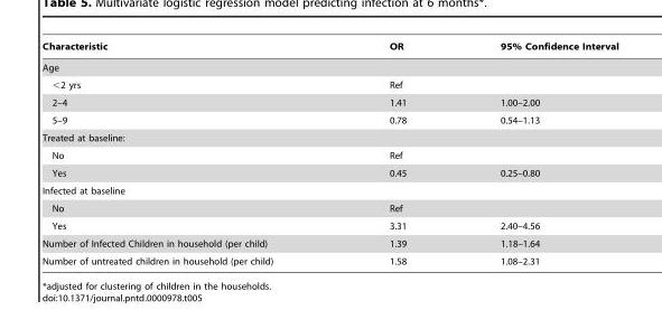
<table><thead><tr><td>Characteristic</td><td>OR</td><td>95% Confidence Interval</td></tr></thead><tbody><tr><td colspan="3">Age</td></tr><tr><td>&lt;2 yrs</td><td>Ref</td><td></td></tr><tr><td>2–4</td><td>1.41</td><td>1.00–2.00</td></tr><tr><td>5–9</td><td>0.78</td><td>0.54–1.13</td></tr><tr><td colspan="3">Treated at baseline:</td></tr><tr><td>No</td><td>Ref</td><td></td></tr><tr><td>Yes</td><td>0.45</td><td>0.25–0.80</td></tr><tr><td colspan="3">Infected at baseline</td></tr><tr><td>No</td><td>Ref</td><td></td></tr><tr><td>Yes</td><td>3.31</td><td>2.40–4.56</td></tr><tr><td>Number of Infected Children in household (per child)</td><td>1.39</td><td>1.18–1.64</td></tr><tr><td>Number of untreated children in household (per child)</td><td>1.58</td><td>1.08–2.31</td></tr></tbody></table>